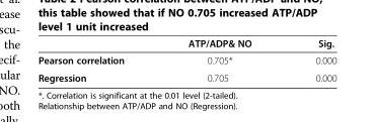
<table><thead><tr><td></td><td>ATP/ADP&amp; NO</td><td>Sig.</td></tr></thead><tbody><tr><td>Pearson correlation</td><td>0.705*</td><td>0.000</td></tr><tr><td>Regression</td><td>0.705</td><td>0.000</td></tr></tbody></table>